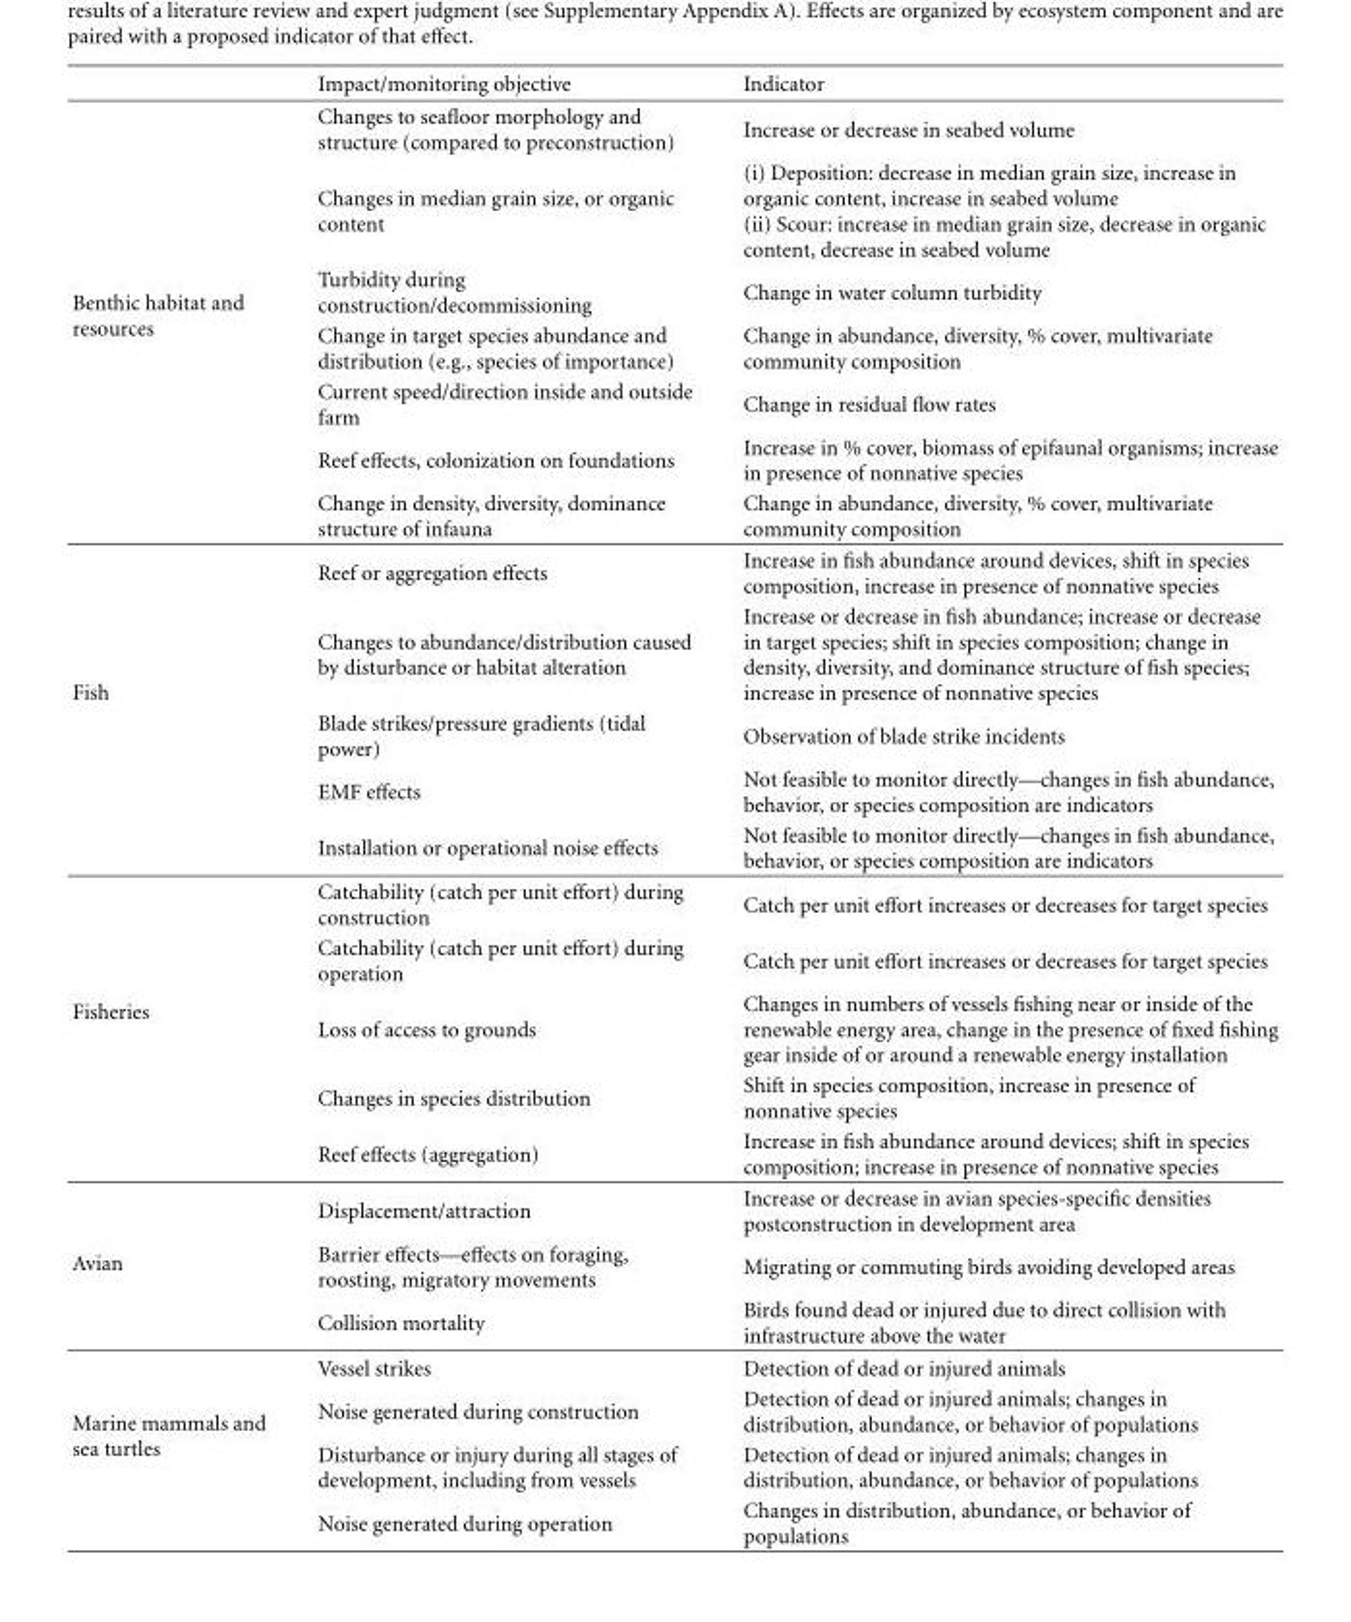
<table><thead><tr><td></td><td>Impact/monitoring objective</td><td>Indicator</td></tr></thead><tbody><tr><td rowspan="7">Benthic habitat and resources</td><td>Changes to seafloor morphology and structure (compared to preconstruction)</td><td>Increase or decrease in seabed volume</td></tr><tr><td>Changes in median grain size, or organic content</td><td>(i) Deposition: decrease in median grain size, increase in organic content, increase in seabed volume (ii) Scour: increase in median grain size, decrease in organic content, decrease in seabed volume</td></tr><tr><td>Turbidity during construction/decommissioning</td><td>Change in water column turbidity</td></tr><tr><td>Change in target species abundance and distribution (e.g., species of importance)</td><td>Change in abundance, diversity, % cover, multivariate community composition</td></tr><tr><td>Current speed/direction inside and outside farm</td><td>Change in residual flow rates</td></tr><tr><td>Reef effects, colonization on foundations</td><td>Increase in % cover, biomass of epifaunal organisms; increase in presence of nonnative species</td></tr><tr><td>Change in density, diversity, dominance structure of infauna</td><td>Change in abundance, diversity, % cover, multivariate community composition</td></tr><tr><td rowspan="5">Fish</td><td>Reef or aggregation effects</td><td>Increase in fish abundance around devices, shift in species composition, increase in presence of nonnative species</td></tr><tr><td>Changes to abundance/distribution caused by disturbance or habitat alteration</td><td>Increase or decrease in fish abundance; increase or decrease in target species; shift in species composition; change in density, diversity, and dominance structure of fish species; increase in presence of nonnative species</td></tr><tr><td>Blade strikes/pressure gradients (tidal power)</td><td>Observation of blade strike incidents</td></tr><tr><td>EMF effects</td><td>Not feasible to monitor directly—changes in fish abundance, behavior, or species composition are indicators</td></tr><tr><td>Installation or operational noise effects</td><td>Not feasible to monitor directly—changes in fish abundance, behavior, or species composition are indicators</td></tr><tr><td rowspan="5">Fisheries</td><td>Catchability (catch per unit effort) during construction</td><td>Catch per unit effort increases or decreases for target species</td></tr><tr><td>Catchability (catch per unit effort) during operation</td><td>Catch per unit effort increases or decreases for target species</td></tr><tr><td>Loss of access to grounds</td><td>Changes in numbers of vessels fishing near or inside of the renewable energy area, change in the presence of fixed fishing gear inside of or around a renewable energy installation</td></tr><tr><td>Changes in species distribution</td><td>Shift in species composition, increase in presence of nonnative species</td></tr><tr><td>Reef effects (aggregation)</td><td>Increase in fish abundance around devices; shift in species composition; increase in presence of nonnative species</td></tr><tr><td rowspan="3">Avian</td><td>Displacement/attraction</td><td>Increase or decrease in avian species-specific densities postconstruction in development area</td></tr><tr><td>Barrier effects—effects on foraging, roosting, migratory movements</td><td>Migrating or commuting birds avoiding developed areas</td></tr><tr><td>Collision mortality</td><td>Birds found dead or injured due to direct collision with infrastructure above the water</td></tr><tr><td rowspan="4">Marine mammals and sea turtles</td><td>Vessel strikes</td><td>Detection of dead or injured animals</td></tr><tr><td>Noise generated during construction</td><td>Detection of dead or injured animals; changes in distribution, abundance, or behavior of populations</td></tr><tr><td>Disturbance or injury during all stages of development, including from vessels</td><td>Detection of dead or injured animals; changes in distribution, abundance, or behavior of populations</td></tr><tr><td>Noise generated during operation</td><td>Changes in distribution, abundance, or behavior of populations</td></tr></tbody></table>